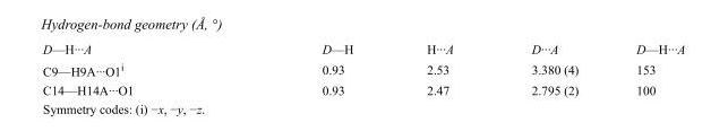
<table><tbody><tr><td>D—H···A</td><td>D—H</td><td>H···A</td><td>D···A</td><td>D—H···A</td></tr><tr><td>C9—H9A···O1<sup>i</sup></td><td>0.93</td><td>2.53</td><td>3.380 (4)</td><td>153</td></tr><tr><td>C14—H14A···O1</td><td>0.93</td><td>2.47</td><td>2.795 (2)</td><td>100</td></tr></tbody></table>